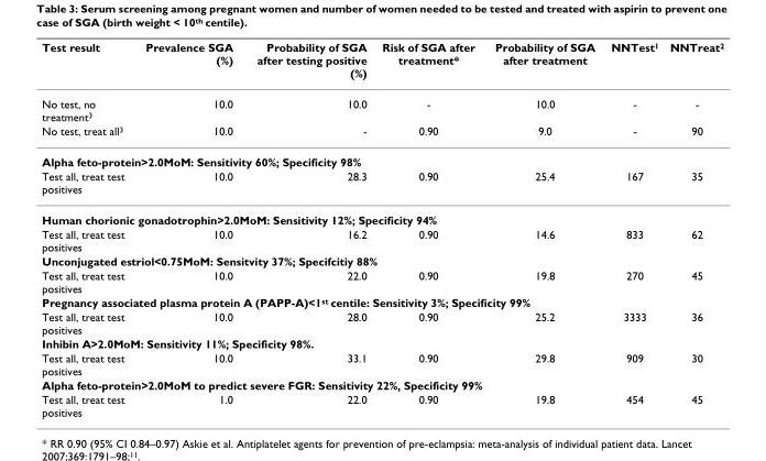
<table><thead><tr><td>Test result</td><td>Prevalence SGA (%)</td><td>Probability of SGA after testing positive (%)</td><td>Risk of SGA after treatment*</td><td>Probability of SGA after treatment</td><td>NNTest<sup>1</sup></td><td>NNTreat<sup>2</sup></td></tr></thead><tbody><tr><td>No test, no treatment<sup>3</sup></td><td>10.0</td><td>10.0</td><td>-</td><td>10.0</td><td>-</td><td>-</td></tr><tr><td>No test, treat all<sup>3</sup></td><td>10.0</td><td>-</td><td>0.90</td><td>9.0</td><td>-</td><td>90</td></tr><tr><td colspan="7">Alpha feto-protein&gt;2.0MoM: Sensitivity 60%; Specificity 98%</td></tr><tr><td>Test all, treat test positives</td><td>10.0</td><td>28.3</td><td>0.90</td><td>25.4</td><td>167</td><td>35</td></tr><tr><td colspan="7">Human chorionic gonadotrophin&gt;2.0MoM: Sensitivity 12%; Specificity 94%</td></tr><tr><td>Test all, treat test positives</td><td>10.0</td><td>16.2</td><td>0.90</td><td>14.6</td><td>833</td><td>62</td></tr><tr><td colspan="7">Unconjugated estriol&lt;0.75MoM: Sensitvity 37%; Specifcitiy 88%</td></tr><tr><td>Test all, treat test positives</td><td>10.0</td><td>22.0</td><td>0.90</td><td>19.8</td><td>270</td><td>45</td></tr><tr><td colspan="7">Pregnancy associated plasma protein A (PAPP-A)&lt;1<sup>st</sup> centile: Sensitivity 3%; Specificity 99%</td></tr><tr><td>Test all, treat test positives</td><td>10.0</td><td>28.0</td><td>0.90</td><td>25.2</td><td>3333</td><td>36</td></tr><tr><td colspan="7">Inhibin A&gt;2.0MoM: Sensitivity 11%; Specificity 98%.</td></tr><tr><td>Test all, treat test positives</td><td>10.0</td><td>33.1</td><td>0.90</td><td>29.8</td><td>909</td><td>30</td></tr><tr><td colspan="7">Alpha feto-protein&gt;2.0MoM to predict severe FGR: Sensitivity 22%, Specificity 99%</td></tr><tr><td>Test all, treat test positives</td><td>1.0</td><td>22.0</td><td>0.90</td><td>19.8</td><td>454</td><td>45</td></tr></tbody></table>